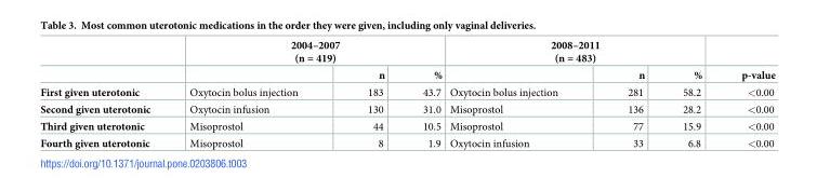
<table><thead><tr><td rowspan="2"></td><td colspan="3">2004–2007 (n = 419)</td><td colspan="3">2008–2011 (n = 483)</td><td rowspan="2">p-value</td></tr><tr><td></td><td>n</td><td>%</td><td></td><td>n</td><td>%</td></tr></thead><tbody><tr><td>First given uterotonic</td><td>Oxytocin bolus injection</td><td>183</td><td>43.7</td><td>Oxytocin bolus injection</td><td>281</td><td>58.2</td><td>&lt;0.00</td></tr><tr><td>Second given uterotonic</td><td>Oxytocin infusion</td><td>130</td><td>31.0</td><td>Misoprostol</td><td>136</td><td>28.2</td><td>&lt;0.00</td></tr><tr><td>Third given uterotonic</td><td>Misoprostol</td><td>44</td><td>10.5</td><td>Misoprostol</td><td>77</td><td>15.9</td><td>&lt;0.00</td></tr><tr><td>Fourth given uterotonic</td><td>Misoprostol</td><td>8</td><td>1.9</td><td>Oxytocin infusion</td><td>33</td><td>6.8</td><td>&lt;0.00</td></tr></tbody></table>